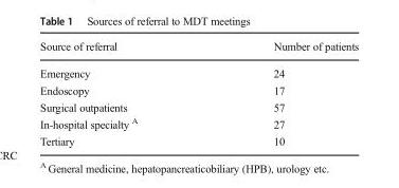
<table><thead><tr><td>Source of referral</td><td>Number of patients</td></tr></thead><tbody><tr><td>Emergency</td><td>24</td></tr><tr><td>Endoscopy</td><td>17</td></tr><tr><td>Surgical outpatients</td><td>57</td></tr><tr><td>In-hospital specialty <sup>A</sup></td><td>27</td></tr><tr><td>Tertiary</td><td>10</td></tr></tbody></table>